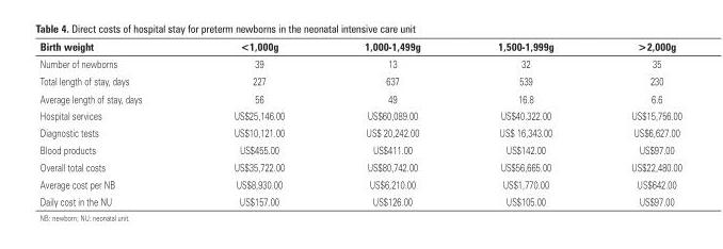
<table><thead><tr><td>Birth weight</td><td>&lt;1,000g</td><td>1,000-1,499g</td><td>1,500-1,999g</td><td>&gt;2,000g</td></tr></thead><tbody><tr><td>Number of newborns</td><td>39</td><td>13</td><td>32</td><td>35</td></tr><tr><td>Total length of stay, days</td><td>227</td><td>637</td><td>539</td><td>230</td></tr><tr><td>Average length of stay, days</td><td>56</td><td>49</td><td>16.8</td><td>6.6</td></tr><tr><td>Hospital services</td><td>US$25,146.00</td><td>US$60,089.00</td><td>US$40.322.00</td><td>US$15,756.00</td></tr><tr><td>Diagnostic tests</td><td>US$10,121.00</td><td>US$ 20,242.00</td><td>US$ 16,343.00</td><td>US$6,627.00</td></tr><tr><td>Blood products</td><td>US$455.00</td><td>US$411.00</td><td>US$142.00</td><td>US$97.00</td></tr><tr><td>Overall total costs</td><td>US$35,722.00</td><td>US$80,742.00</td><td>US$56,665.00</td><td>US$22,480.00</td></tr><tr><td>Average cost per NB</td><td>US$8,930.00</td><td>US$6,210.00</td><td>US$1,770.00</td><td>US$642.00</td></tr><tr><td>Daily cost in the NU</td><td>US$157.00</td><td>US$126.00</td><td>US$105.00</td><td>US$97.00</td></tr></tbody></table>